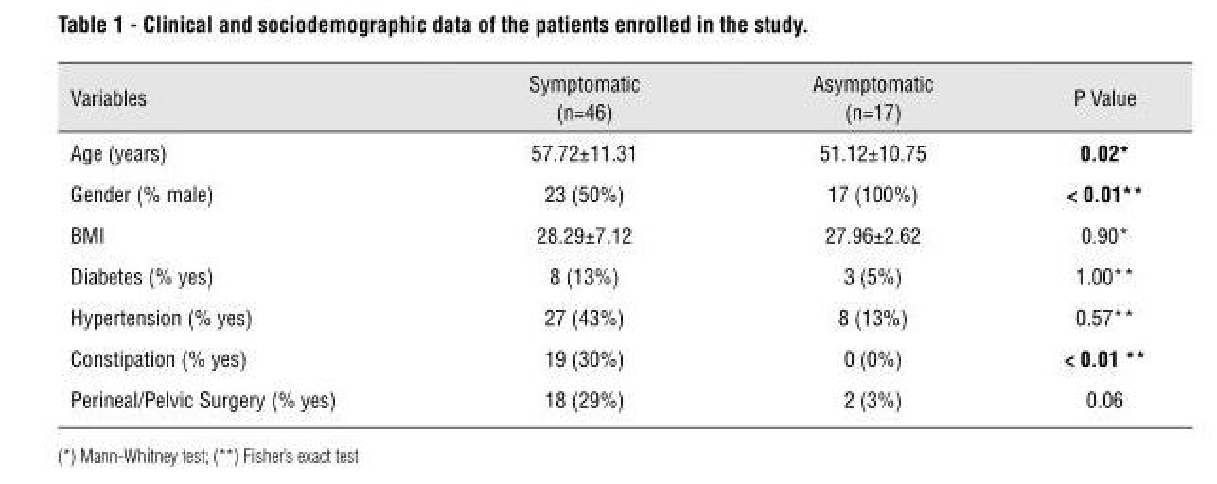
<table><thead><tr><td>Variables</td><td>Symptomatic (n=46)</td><td>Asymptomatic (n=17)</td><td>P Value</td></tr></thead><tbody><tr><td>Age (years)</td><td>57.72±11.31</td><td>51.12±10.75</td><td>0.02*</td></tr><tr><td>Gender (% male)</td><td>23 (50%)</td><td>17 (100%)</td><td>&lt; 0.01**</td></tr><tr><td>BMI</td><td>28.29±7.12</td><td>27.96±2.62</td><td>0.90*</td></tr><tr><td>Diabetes (% yes)</td><td>8 (13%)</td><td>3 (5%)</td><td>1.00**</td></tr><tr><td>Hypertension (% yes)</td><td>27 (43%)</td><td>8 (13%)</td><td>0.57**</td></tr><tr><td>Constipation (% yes)</td><td>19 (30%)</td><td>0 (0%)</td><td>&lt; 0.01 **</td></tr><tr><td>Perineal/Pelvic Surgery (% yes)</td><td>18 (29%)</td><td>2 (3%)</td><td>0.06</td></tr></tbody></table>